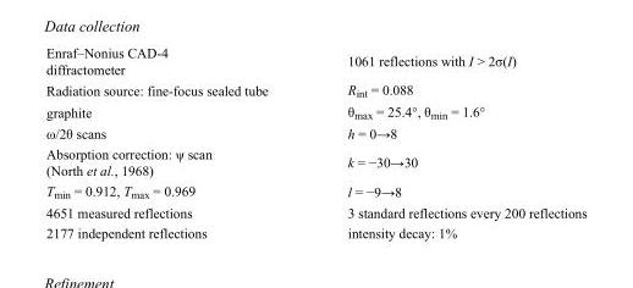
<table><tbody><tr><td>Enraf–Nonius CAD-4 diffractometer</td><td>1061 reflections with I &gt; 2σ(I)</td></tr><tr><td>Radiation source: fine-focus sealed tube</td><td>R<sub>int</sub> = 0.088</td></tr><tr><td>graphite</td><td>θ<sub>max</sub> = 25.4°, θ<sub>min</sub> = 1.6°</td></tr><tr><td>ω/2θ scans</td><td>h = 0→8</td></tr><tr><td>Absorption correction: ψ scan (North et al., 1968)</td><td>k = −30→30</td></tr><tr><td>T<sub>min</sub> = 0.912, T<sub>max</sub> = 0.969</td><td>l = −9→8</td></tr><tr><td>4651 measured reflections</td><td>3 standard reflections every 200 reflections</td></tr><tr><td>2177 independent reflections</td><td>intensity decay: 1%</td></tr></tbody></table>